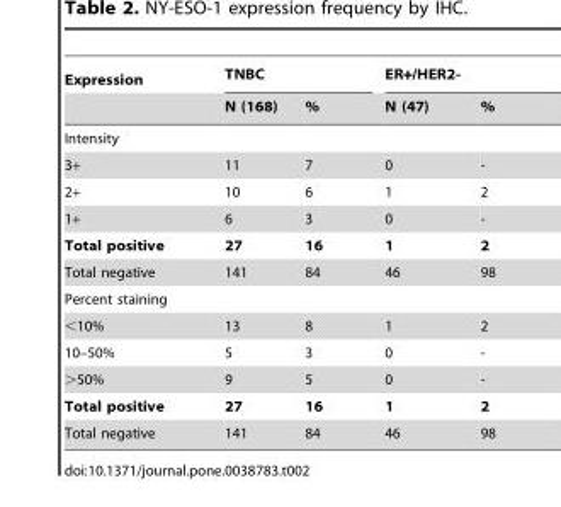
<table><thead><tr><td rowspan="2">Expression</td><td colspan="2">TNBC</td><td colspan="2">ER+/HER2-</td></tr><tr><td>N (168)</td><td>%</td><td>N (47)</td><td>%</td></tr></thead><tbody><tr><td colspan="5">Intensity</td></tr><tr><td>3+</td><td>11</td><td>7</td><td>0</td><td>-</td></tr><tr><td>2+</td><td>10</td><td>6</td><td>1</td><td>2</td></tr><tr><td>1+</td><td>6</td><td>3</td><td>0</td><td>-</td></tr><tr><td>Total positive</td><td>27</td><td>16</td><td>1</td><td>2</td></tr><tr><td>Total negative</td><td>141</td><td>84</td><td>46</td><td>98</td></tr><tr><td colspan="5">Percent staining</td></tr><tr><td>&lt;10%</td><td>13</td><td>8</td><td>1</td><td>2</td></tr><tr><td>10–50%</td><td>5</td><td>3</td><td>0</td><td>-</td></tr><tr><td>&gt;50%</td><td>9</td><td>5</td><td>0</td><td>-</td></tr><tr><td>Total positive</td><td>27</td><td>16</td><td>1</td><td>2</td></tr><tr><td>Total negative</td><td>141</td><td>84</td><td>46</td><td>98</td></tr></tbody></table>